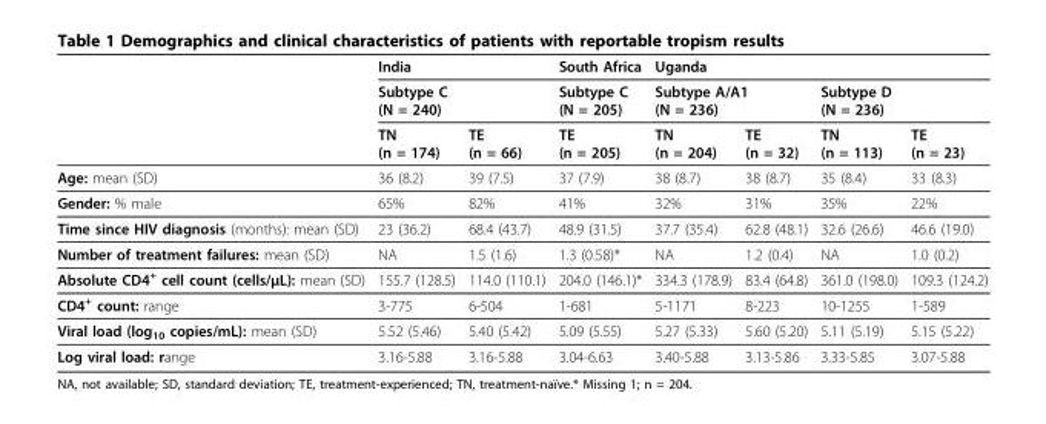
<table><thead><tr><td rowspan="3"></td><td rowspan="2" colspan="2">India Subtype C (N = 240)</td><td rowspan="3">South Africa Subtype C (N = 205) TE (n = 205)</td><td colspan="4">Uganda</td></tr><tr><td colspan="2">Subtype A/A1 (N = 236)</td><td colspan="2">Subtype D (N = 236)</td></tr><tr><td>TN (n = 174)</td><td>TE (n = 66)</td><td>TN (n = 204)</td><td>TE (n = 32)</td><td>TN (n = 113)</td><td>TE (n = 23)</td></tr></thead><tbody><tr><td>Age: mean (SD)</td><td>36 (8.2)</td><td>39 (7.5)</td><td>37 (7.9)</td><td>38 (8.7)</td><td>38 (8.7)</td><td>35 (8.4)</td><td>33 (8.3)</td></tr><tr><td>Gender: % male</td><td>65%</td><td>82%</td><td>41%</td><td>32%</td><td>31%</td><td>35%</td><td>22%</td></tr><tr><td>Time since HIV diagnosis (months): mean (SD)</td><td>23 (36.2)</td><td>68.4 (43.7)</td><td>48.9 (31.5)</td><td>37.7 (35.4)</td><td>62.8 (48.1)</td><td>32.6 (26.6)</td><td>46.6 (19.0)</td></tr><tr><td>Number of treatment failures: mean (SD)</td><td>NA</td><td>1.5 (1.6)</td><td>1.3 (0.58)*</td><td>NA</td><td>1.2 (0.4)</td><td>NA</td><td>1.0 (0.2)</td></tr><tr><td>Absolute CD4<sup>+</sup> cell count (cells/μL): mean (SD)</td><td>155.7 (128.5)</td><td>114.0 (110.1)</td><td>204.0 (146.1)*</td><td>334.3 (178.9)</td><td>83.4 (64.8)</td><td>361.0 (198.0)</td><td>109.3 (124.2)</td></tr><tr><td>CD4<sup>+</sup> count: range</td><td>3-775</td><td>6-504</td><td>1-681</td><td>5-1171</td><td>8-223</td><td>10-1255</td><td>1-589</td></tr><tr><td>Viral load (log<sub>10</sub> copies/mL): mean (SD)</td><td>5.52 (5.46)</td><td>5.40 (5.42)</td><td>5.09 (5.55)</td><td>5.27 (5.33)</td><td>5.60 (5.20)</td><td>5.11 (5.19)</td><td>5.15 (5.22)</td></tr><tr><td>Log viral load: range</td><td>3.16-5.88</td><td>3.16-5.88</td><td>3.04-6.63</td><td>3.40-5.88</td><td>3.13-5.86</td><td>3.33-5.85</td><td>3.07-5.88</td></tr></tbody></table>